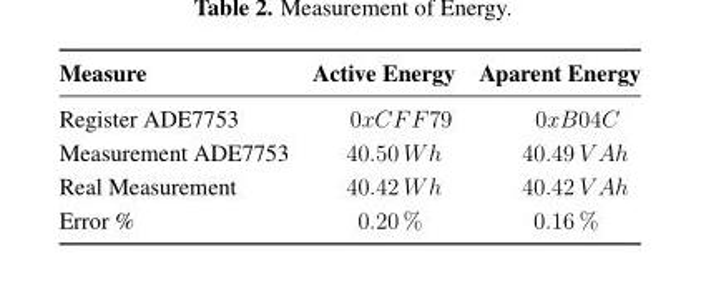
<table><thead><tr><td>Measure</td><td>Active Energy</td><td>Aparent Energy</td></tr></thead><tbody><tr><td>Register ADE7753</td><td>0xCFF79</td><td>0xB04C</td></tr><tr><td>Measurement ADE7753</td><td>40.50 Wh</td><td>40.49 V Ah</td></tr><tr><td>Real Measurement</td><td>40.42 Wh</td><td>40.42 V Ah</td></tr><tr><td>Error %</td><td>0.20 %</td><td>0.16 %</td></tr></tbody></table>